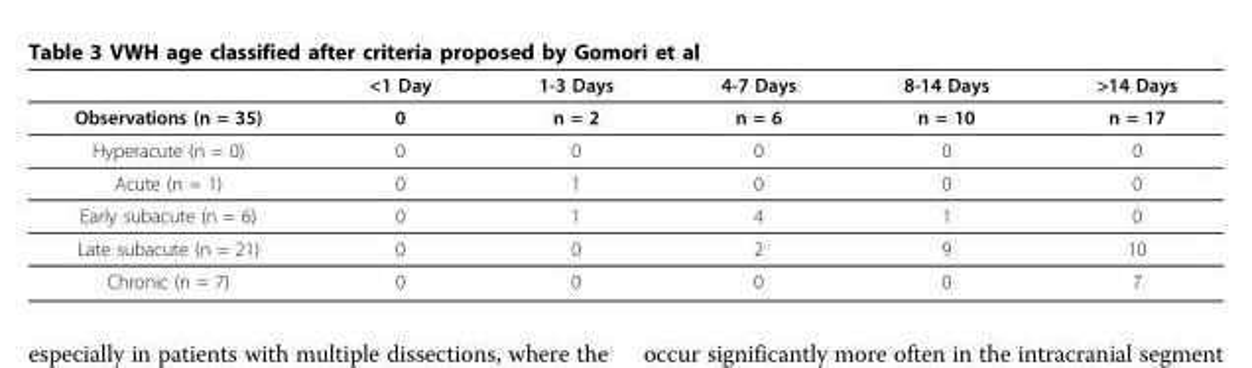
<table><thead><tr><td></td><td>&lt;1 Day</td><td>1-3 Days</td><td>4-7 Days</td><td>8-14 Days</td><td>&gt;14 Days</td></tr></thead><tbody><tr><td>Observations (n = 35)</td><td>0</td><td>n = 2</td><td>n = 6</td><td>n = 10</td><td>n = 17</td></tr><tr><td>Hyperacute (n = 0)</td><td>0</td><td>0</td><td>0</td><td>0</td><td>0</td></tr><tr><td>Acute (n = 1)</td><td>0</td><td>1</td><td>0</td><td>0</td><td>0</td></tr><tr><td>Early subacute (n = 6)</td><td>0</td><td>1</td><td>4</td><td>1</td><td>0</td></tr><tr><td>Late subacute (n = 21)</td><td>0</td><td>0</td><td>2</td><td>9</td><td>10</td></tr><tr><td>Chronic (n = 7)</td><td>0</td><td>0</td><td>0</td><td>0</td><td>7</td></tr></tbody></table>